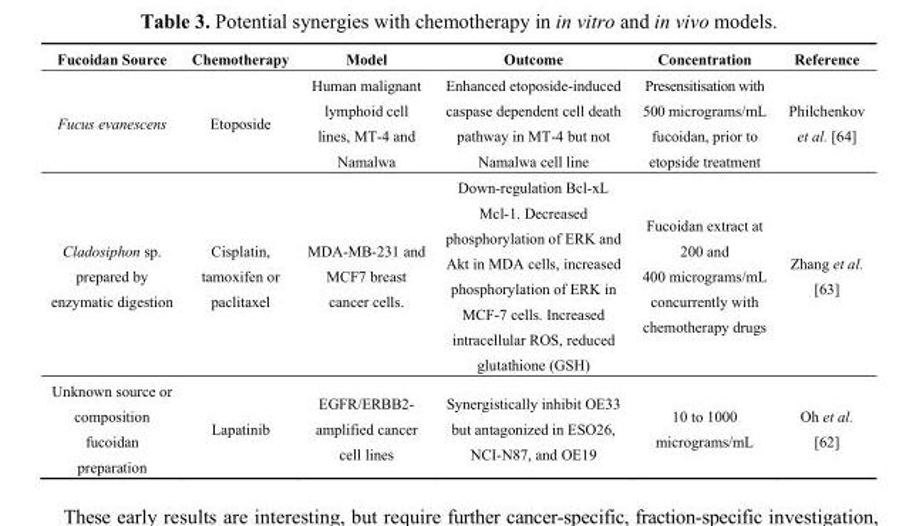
<table><thead><tr><td>Fucoidan Source</td><td>Chemotherapy</td><td>Model</td><td>Outcome</td><td>Concentration</td><td>Reference</td></tr></thead><tbody><tr><td>Fucus evanescens</td><td>Etoposide</td><td>Human malignant lymphoid cell lines, MT-4 and Namalwa</td><td>Enhanced etoposide-induced caspase dependent cell death pathway in MT-4 but not Namalwa cell line</td><td>Presensitisation with 500 micrograms/mL fucoidan, prior to etopside treatment</td><td>Philchenkov et al. [64]</td></tr><tr><td>Cladosiphon sp. prepared by enzymatic digestion</td><td>Cisplatin, tamoxifen or paclitaxel</td><td>MDA-MB-231 and MCF7 breast cancer cells.</td><td>Down-regulation Bcl-xL Mcl-1. Decreased phosphorylation of ERK and Akt in MDA cells, increased phosphorylation of ERK in MCF-7 cells. Increased intracellular ROS, reduced glutathione (GSH)</td><td>Fucoidan extract at 200 and 400 micrograms/mL concurrently with chemotherapy drugs</td><td>Zhang et al. [63]</td></tr><tr><td>Unknown source or composition fucoidan preparation</td><td>Lapatinib</td><td>EGFR/ERBB2- amplified cancer cell lines</td><td>Synergistically inhibit OE33 but antagonized in ESO26, NCI-N87, and OE19</td><td>10 to 1000 micrograms/mL</td><td>Oh et al. [62]</td></tr></tbody></table>